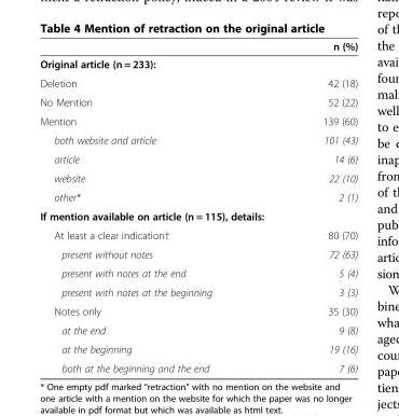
<table><thead><tr><td></td><td>n (%)</td></tr></thead><tbody><tr><td colspan="2">Original article (n = 233):</td></tr><tr><td>Deletion</td><td>42 (18)</td></tr><tr><td>No Mention</td><td>52 (22)</td></tr><tr><td>Mention</td><td>139 (60)</td></tr><tr><td>both website and article</td><td>101 (43)</td></tr><tr><td>article</td><td>14 (6)</td></tr><tr><td>website</td><td>22 (10)</td></tr><tr><td>other*</td><td>2 (1)</td></tr><tr><td colspan="2">If mention available on article (n = 115), details:</td></tr><tr><td>At least a clear indication†</td><td>80 (70)</td></tr><tr><td>present without notes</td><td>72 (63)</td></tr><tr><td>present with notes at the end</td><td>5 (4)</td></tr><tr><td>present with notes at the beginning</td><td>3 (3)</td></tr><tr><td>Notes only</td><td>35 (30)</td></tr><tr><td>at the end</td><td>9 (8)</td></tr><tr><td>at the beginning</td><td>19 (16)</td></tr><tr><td>both at the beginning and the end</td><td>7 (6)</td></tr></tbody></table>